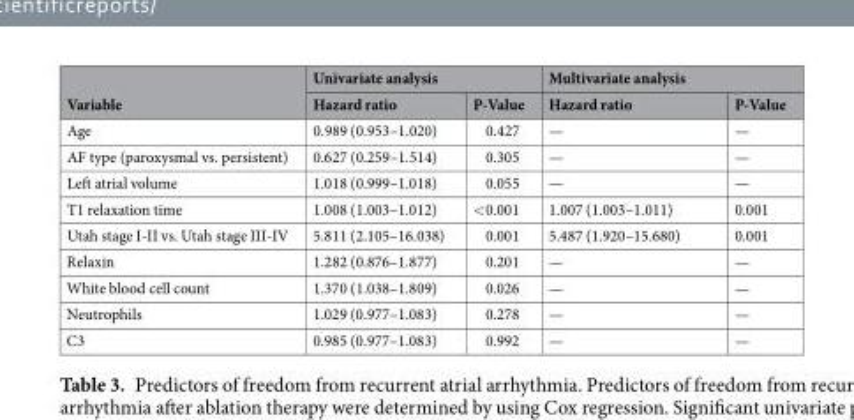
<table><thead><tr><td rowspan="2">Variable</td><td colspan="2">Univariate analysis</td><td colspan="2">Multivariate analysis</td></tr><tr><td>Hazard ratio</td><td>P-Value</td><td>Hazard ratio</td><td>P-Value</td></tr></thead><tbody><tr><td>Age</td><td>0.989 (0.953–1.020)</td><td>0.427</td><td>—</td><td>—</td></tr><tr><td>AF type (paroxysmal vs. persistent)</td><td>0.627 (0.259–1.514)</td><td>0.305</td><td>—</td><td>—</td></tr><tr><td>Left atrial volume</td><td>1.018 (0.999–1.018)</td><td>0.055</td><td>—</td><td>—</td></tr><tr><td>T1 relaxation time</td><td>1.008 (1.003–1.012)</td><td>&lt;0.001</td><td>1.007 (1.003–1.011)</td><td>0.001</td></tr><tr><td>Utah stage I-II vs. Utah stage III-IV</td><td>5.811 (2.105–16.038)</td><td>0.001</td><td>5.487 (1.920–15.680)</td><td>0.001</td></tr><tr><td>Relaxin</td><td>1.282 (0.876–1.877)</td><td>0.201</td><td>—</td><td>—</td></tr><tr><td>White blood cell count</td><td>1.370 (1.038–1.809)</td><td>0.026</td><td>—</td><td>—</td></tr><tr><td>Neutrophils</td><td>1.029 (0.977–1.083)</td><td>0.278</td><td>—</td><td>—</td></tr><tr><td>C3</td><td>0.985 (0.977–1.083)</td><td>0.992</td><td>—</td><td>—</td></tr></tbody></table>